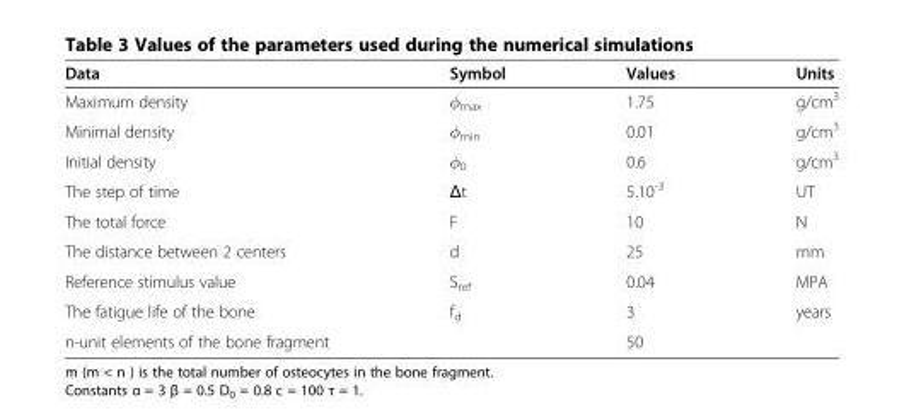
<table><thead><tr><td>Data</td><td>Symbol</td><td>Values</td><td>Units</td></tr></thead><tbody><tr><td>Maximum density</td><td>ϕ<sub>max</sub></td><td>1.75</td><td>g/cm<sup>3</sup></td></tr><tr><td>Minimal density</td><td>ϕ<sub>min</sub></td><td>0.01</td><td>g/cm<sup>3</sup></td></tr><tr><td>Initial density</td><td>ϕ<sub>0</sub></td><td>0.6</td><td>g/cm<sup>3</sup></td></tr><tr><td>The step of time</td><td>Δt</td><td>5.10<sup>-3</sup></td><td>UT</td></tr><tr><td>The total force</td><td>F</td><td>10</td><td>N</td></tr><tr><td>The distance between 2 centers</td><td>d</td><td>25</td><td>mm</td></tr><tr><td>Reference stimulus value</td><td>S<sub>ref</sub></td><td>0.04</td><td>MPA</td></tr><tr><td>The fatigue life of the bone</td><td>f<sub>d</sub></td><td>3</td><td>years</td></tr><tr><td>n-unit elements of the bone fragment</td><td></td><td>50</td><td></td></tr></tbody></table>